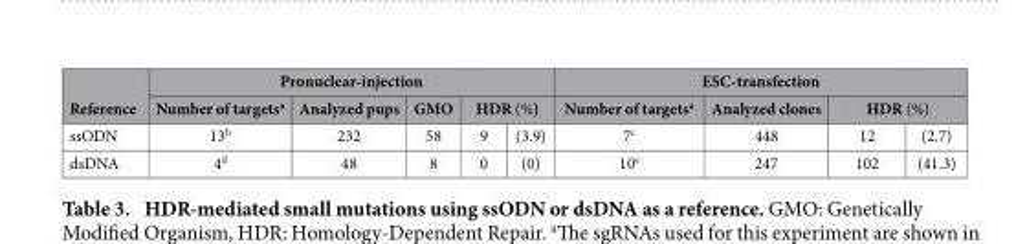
<table><thead><tr><td rowspan="3">Reference ssODN</td><td colspan="5">Pronuclear-injection</td><td colspan="4">ESC-transfection</td></tr><tr><td rowspan="2">Number of targets<sup>a</sup> 13<sup>b</sup></td><td rowspan="2">Analyzed pups 232</td><td rowspan="2">GMO 58</td><td colspan="2">HDR (%)</td><td rowspan="2">Number of targets<sup>a</sup> 7<sup>c</sup></td><td rowspan="2">Analyzed clones 448</td><td colspan="2">HDR (%)</td></tr><tr><td>9</td><td>(3.9)</td><td>12</td><td>(2.7)</td></tr></thead><tbody><tr><td>dsDNA</td><td>4<sup>d</sup></td><td>48</td><td>8</td><td>0</td><td>(0)</td><td>10<sup>e</sup></td><td>247</td><td>102</td><td>(41.3)</td></tr></tbody></table>